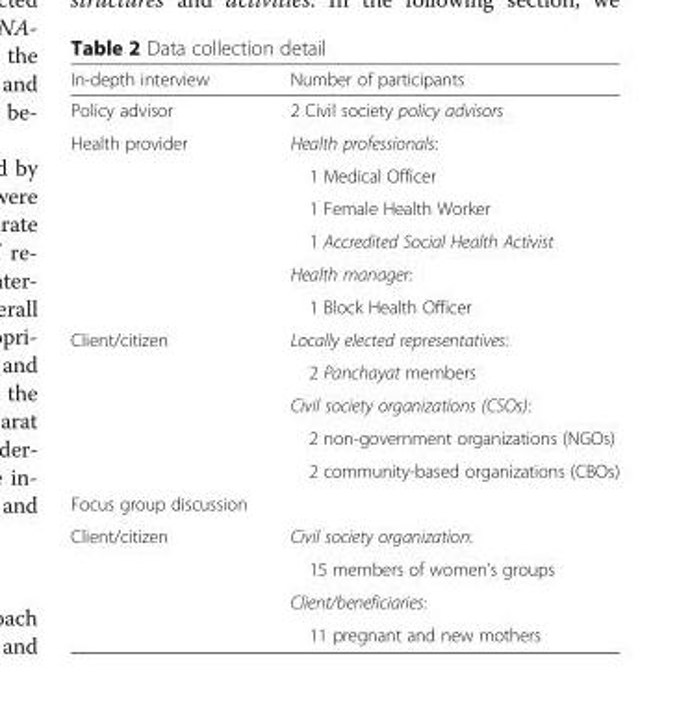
<table><thead><tr><td>In-depth interview</td><td>Number of participants</td></tr></thead><tbody><tr><td>Policy advisor</td><td>2 Civil society policy advisors</td></tr><tr><td rowspan="6">Health provider</td><td>Health professionals:</td></tr><tr><td>1 Medical Officer</td></tr><tr><td>1 Female Health Worker</td></tr><tr><td>1 Accredited Social Health Activist</td></tr><tr><td>Health manager:</td></tr><tr><td>1 Block Health Officer</td></tr><tr><td rowspan="5">Client/citizen</td><td>Locally elected representatives:</td></tr><tr><td>2 Panchayat members</td></tr><tr><td>Civil society organizations (CSOs):</td></tr><tr><td>2 non-government organizations (NGOs)</td></tr><tr><td>2 community-based organizations (CBOs)</td></tr><tr><td colspan="2">Focus group discussion</td></tr><tr><td rowspan="4">Client/citizen</td><td>Civil society organization:</td></tr><tr><td>15 members of women’s groups</td></tr><tr><td>Client/beneficiaries:</td></tr><tr><td>11 pregnant and new mothers</td></tr></tbody></table>